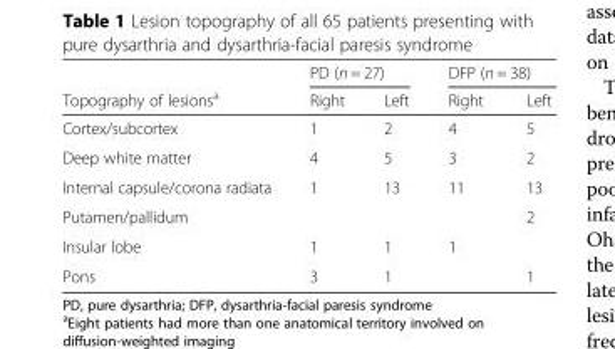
<table><thead><tr><td rowspan="2">Topography of lesions<sup>a</sup></td><td colspan="2">PD (n = 27)</td><td colspan="2">DFP (n = 38)</td></tr><tr><td>Right</td><td>Left</td><td>Right</td><td>Left</td></tr></thead><tbody><tr><td>Cortex/subcortex</td><td>1</td><td>2</td><td>4</td><td>5</td></tr><tr><td>Deep white matter</td><td>4</td><td>5</td><td>3</td><td>2</td></tr><tr><td>Internal capsule/corona radiata</td><td>1</td><td>13</td><td>11</td><td>13</td></tr><tr><td>Putamen/pallidum</td><td></td><td></td><td></td><td>2</td></tr><tr><td>Insular lobe</td><td>1</td><td>1</td><td>1</td><td></td></tr><tr><td>Pons</td><td>3</td><td>1</td><td></td><td>1</td></tr></tbody></table>